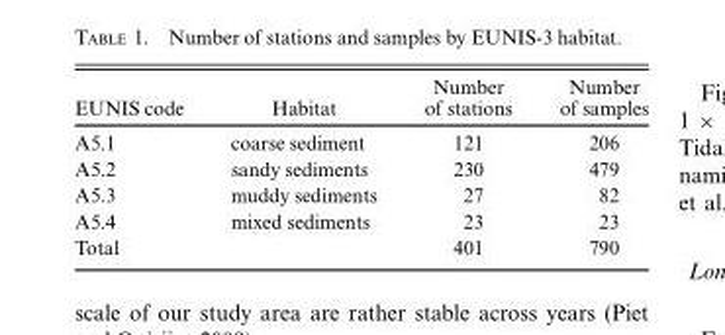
<table><thead><tr><td>EUNIS code</td><td>Habitat</td><td>Number of stations</td><td>Number of samples</td></tr></thead><tbody><tr><td>A5.1</td><td>coarse sediment</td><td>121</td><td>206</td></tr><tr><td>A5.2</td><td>sandy sediments</td><td>230</td><td>479</td></tr><tr><td>A5.3</td><td>muddy sediments</td><td>27</td><td>82</td></tr><tr><td>A5.4</td><td>mixed sediments</td><td>23</td><td>23</td></tr><tr><td>Total</td><td></td><td>401</td><td>790</td></tr></tbody></table>